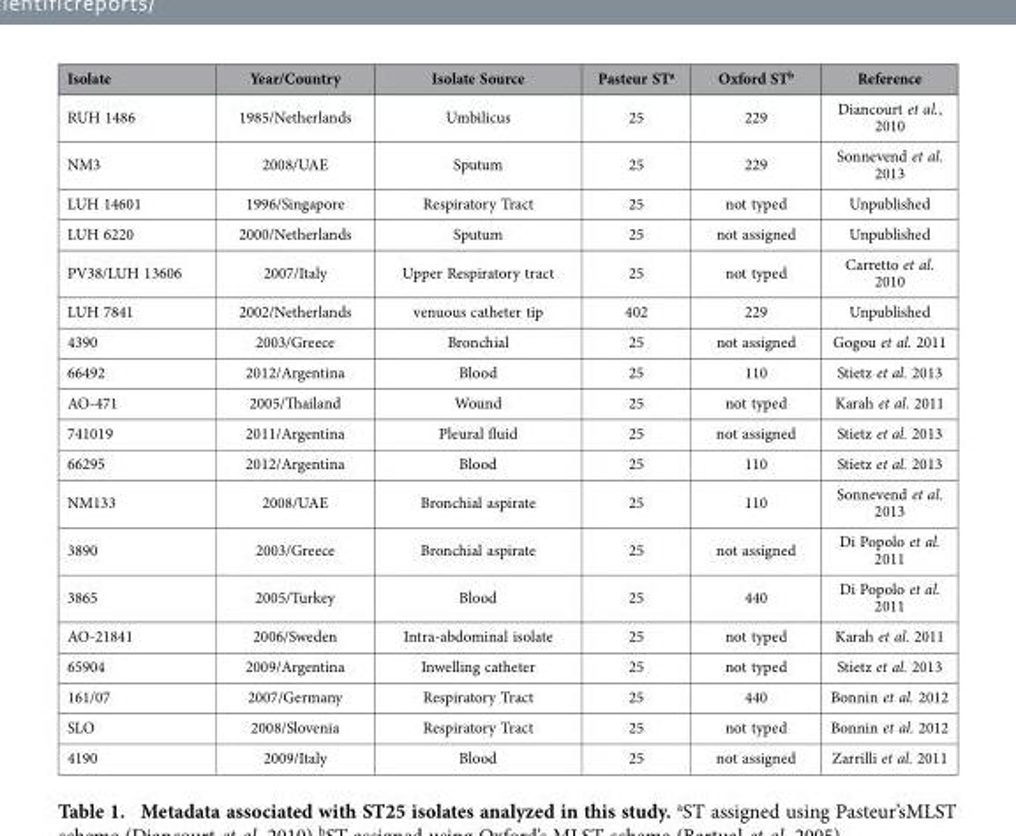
<table><thead><tr><td>Isolate</td><td>Year/Country</td><td>Isolate Source</td><td>Pasteur ST<sup>a</sup></td><td>Oxford ST<sup>b</sup></td><td>Reference</td></tr></thead><tbody><tr><td>RUH 1486</td><td>1985/Netherlands</td><td>Umbilicus</td><td>25</td><td>229</td><td>Diancourt et al., 2010</td></tr><tr><td>NM3</td><td>2008/UAE</td><td>Sputum</td><td>25</td><td>229</td><td>Sonnevend et al. 2013</td></tr><tr><td>LUH 14601</td><td>1996/Singapore</td><td>Respiratory Tract</td><td>25</td><td>not typed</td><td>Unpublished</td></tr><tr><td>LUH 6220</td><td>2000/Netherlands</td><td>Sputum</td><td>25</td><td>not assigned</td><td>Unpublished</td></tr><tr><td>PV38/LUH 13606</td><td>2007/Italy</td><td>Upper Respiratory tract</td><td>25</td><td>not typed</td><td>Carretto et al. 2010</td></tr><tr><td>LUH 7841</td><td>2002/Netherlands</td><td>venuous catheter tip</td><td>402</td><td>229</td><td>Unpublished</td></tr><tr><td>4390</td><td>2003/Greece</td><td>Bronchial</td><td>25</td><td>not assigned</td><td>Gogou et al. 2011</td></tr><tr><td>66492</td><td>2012/Argentina</td><td>Blood</td><td>25</td><td>110</td><td>Stietz et al. 2013</td></tr><tr><td>AO-471</td><td>2005/Thailand</td><td>Wound</td><td>25</td><td>not typed</td><td>Karah et al. 2011</td></tr><tr><td>741019</td><td>2011/Argentina</td><td>Pleural fluid</td><td>25</td><td>not assigned</td><td>Stietz et al. 2013</td></tr><tr><td>66295</td><td>2012/Argentina</td><td>Blood</td><td>25</td><td>110</td><td>Stietz et al. 2013</td></tr><tr><td>NM133</td><td>2008/UAE</td><td>Bronchial aspirate</td><td>25</td><td>110</td><td>Sonnevend et al. 2013</td></tr><tr><td>3890</td><td>2003/Greece</td><td>Bronchial aspirate</td><td>25</td><td>not assigned</td><td>Di Popolo et al. 2011</td></tr><tr><td>3865</td><td>2005/Turkey</td><td>Blood</td><td>25</td><td>440</td><td>Di Popolo et al. 2011</td></tr><tr><td>AO-21841</td><td>2006/Sweden</td><td>Intra-abdominal isolate</td><td>25</td><td>not typed</td><td>Karah et al. 2011</td></tr><tr><td>65904</td><td>2009/Argentina</td><td>Inwelling catheter</td><td>25</td><td>not typed</td><td>Stietz et al. 2013</td></tr><tr><td>161/07</td><td>2007/Germany</td><td>Respiratory Tract</td><td>25</td><td>440</td><td>Bonnin et al. 2012</td></tr><tr><td>SLO</td><td>2008/Slovenia</td><td>Respiratory Tract</td><td>25</td><td>not typed</td><td>Bonnin et al. 2012</td></tr><tr><td>4190</td><td>2009/Italy</td><td>Blood</td><td>25</td><td>not assigned</td><td>Zarrilli et al. 2011</td></tr></tbody></table>